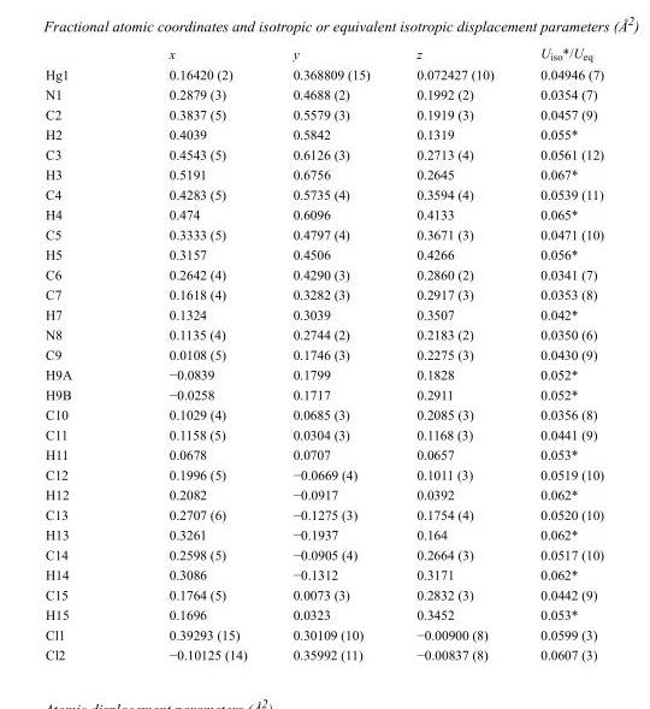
<table><thead><tr><td></td><td>x</td><td>y</td><td>z</td><td>U<sub>iso</sub>*/U<sub>eq</sub></td></tr></thead><tbody><tr><td>Hg1</td><td>0.16420 (2)</td><td>0.368809 (15)</td><td>0.072427 (10)</td><td>0.04946 (7)</td></tr><tr><td>N1</td><td>0.2879 (3)</td><td>0.4688 (2)</td><td>0.1992 (2)</td><td>0.0354 (7)</td></tr><tr><td>C2</td><td>0.3837 (5)</td><td>0.5579 (3)</td><td>0.1919 (3)</td><td>0.0457 (9)</td></tr><tr><td>H2</td><td>0.4039</td><td>0.5842</td><td>0.1319</td><td>0.055*</td></tr><tr><td>C3</td><td>0.4543 (5)</td><td>0.6126 (3)</td><td>0.2713 (4)</td><td>0.0561 (12)</td></tr><tr><td>H3</td><td>0.5191</td><td>0.6756</td><td>0.2645</td><td>0.067*</td></tr><tr><td>C4</td><td>0.4283 (5)</td><td>0.5735 (4)</td><td>0.3594 (4)</td><td>0.0539 (11)</td></tr><tr><td>H4</td><td>0.474</td><td>0.6096</td><td>0.4133</td><td>0.065*</td></tr><tr><td>C5</td><td>0.3333 (5)</td><td>0.4797 (4)</td><td>0.3671 (3)</td><td>0.0471 (10)</td></tr><tr><td>H5</td><td>0.3157</td><td>0.4506</td><td>0.4266</td><td>0.056*</td></tr><tr><td>C6</td><td>0.2642 (4)</td><td>0.4290 (3)</td><td>0.2860 (2)</td><td>0.0341 (7)</td></tr><tr><td>C7</td><td>0.1618 (4)</td><td>0.3282 (3)</td><td>0.2917 (3)</td><td>0.0353 (8)</td></tr><tr><td>H7</td><td>0.1324</td><td>0.3039</td><td>0.3507</td><td>0.042*</td></tr><tr><td>N8</td><td>0.1135 (4)</td><td>0.2744 (2)</td><td>0.2183 (2)</td><td>0.0350 (6)</td></tr><tr><td>C9</td><td>0.0108 (5)</td><td>0.1746 (3)</td><td>0.2275 (3)</td><td>0.0430 (9)</td></tr><tr><td>H9A</td><td>−0.0839</td><td>0.1799</td><td>0.1828</td><td>0.052*</td></tr><tr><td>H9B</td><td>−0.0258</td><td>0.1717</td><td>0.2911</td><td>0.052*</td></tr><tr><td>C10</td><td>0.1029 (4)</td><td>0.0685 (3)</td><td>0.2085 (3)</td><td>0.0356 (8)</td></tr><tr><td>C11</td><td>0.1158 (5)</td><td>0.0304 (3)</td><td>0.1168 (3)</td><td>0.0441 (9)</td></tr><tr><td>H11</td><td>0.0678</td><td>0.0707</td><td>0.0657</td><td>0.053*</td></tr><tr><td>C12</td><td>0.1996 (5)</td><td>−0.0669 (4)</td><td>0.1011 (3)</td><td>0.0519 (10)</td></tr><tr><td>H12</td><td>0.2082</td><td>−0.0917</td><td>0.0392</td><td>0.062*</td></tr><tr><td>C13</td><td>0.2707 (6)</td><td>−0.1275 (3)</td><td>0.1754 (4)</td><td>0.0520 (10)</td></tr><tr><td>H13</td><td>0.3261</td><td>−0.1937</td><td>0.164</td><td>0.062*</td></tr><tr><td>C14</td><td>0.2598 (5)</td><td>−0.0905 (4)</td><td>0.2664 (3)</td><td>0.0517 (10)</td></tr><tr><td>H14</td><td>0.3086</td><td>−0.1312</td><td>0.3171</td><td>0.062*</td></tr><tr><td>C15</td><td>0.1764 (5)</td><td>0.0073 (3)</td><td>0.2832 (3)</td><td>0.0442 (9)</td></tr><tr><td>H15</td><td>0.1696</td><td>0.0323</td><td>0.3452</td><td>0.053*</td></tr><tr><td>Cl1</td><td>0.39293 (15)</td><td>0.30109 (10)</td><td>−0.00900 (8)</td><td>0.0599 (3)</td></tr><tr><td>Cl2</td><td>−0.10125 (14)</td><td>0.35992 (11)</td><td>−0.00837 (8)</td><td>0.0607 (3)</td></tr></tbody></table>